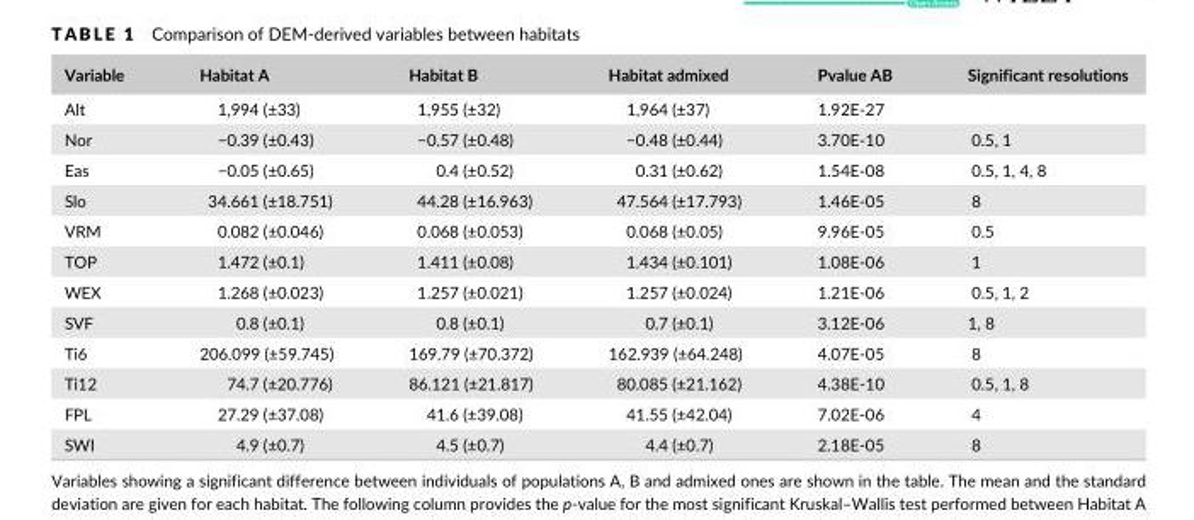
<table><thead><tr><td>Variable</td><td>Habitat A</td><td>Habitat B</td><td>Habitat admixed</td><td>Pvalue AB</td><td>Significant resolutions</td></tr></thead><tbody><tr><td>Alt</td><td>1,994 (±33)</td><td>1,955 (±32)</td><td>1,964 (±37)</td><td>1.92E- 27</td><td></td></tr><tr><td>Nor</td><td>−0.39 (±0.43)</td><td>−0.57 (±0.48)</td><td>−0.48 (±0.44)</td><td>3.70E- 10</td><td>0.5, 1</td></tr><tr><td>Eas</td><td>−0.05 (±0.65)</td><td>0.4 (±0.52)</td><td>0.31 (±0.62)</td><td>1.54E- 08</td><td>0.5, 1, 4, 8</td></tr><tr><td>Slo</td><td>34.661 (±18.751)</td><td>44.28 (±16.963)</td><td>47.564 (±17.793)</td><td>1.46E- 05</td><td>8</td></tr><tr><td>VRM</td><td>0.082 (±0.046)</td><td>0.068 (±0.053)</td><td>0.068 (±0.05)</td><td>9.96E- 05</td><td>0.5</td></tr><tr><td>TOP</td><td>1.472 (±0.1)</td><td>1.411 (±0.08)</td><td>1.434 (±0.101)</td><td>1.08E- 06</td><td>1</td></tr><tr><td>WEX</td><td>1.268 (±0.023)</td><td>1.257 (±0.021)</td><td>1.257 (±0.024)</td><td>1.21E- 06</td><td>0.5, 1, 2</td></tr><tr><td>SVF</td><td>0.8 (±0.1)</td><td>0.8 (±0.1)</td><td>0.7 (±0.1)</td><td>3.12E- 06</td><td>1, 8</td></tr><tr><td>Ti6</td><td>206.099 (±59.745)</td><td>169.79 (±70.372)</td><td>162.939 (±64.248)</td><td>4.07E- 05</td><td>8</td></tr><tr><td>Ti12</td><td>74.7 (±20.776)</td><td>86.121 (±21.817)</td><td>80.085 (±21.162)</td><td>4.38E- 10</td><td>0.5, 1, 8</td></tr><tr><td>FPL</td><td>27.29 (±37.08)</td><td>41.6 (±39.08)</td><td>41.55 (±42.04)</td><td>7.02E- 06</td><td>4</td></tr><tr><td>SWI</td><td>4.9 (±0.7)</td><td>4.5 (±0.7)</td><td>4.4 (±0.7)</td><td>2.18E- 05</td><td>8</td></tr></tbody></table>